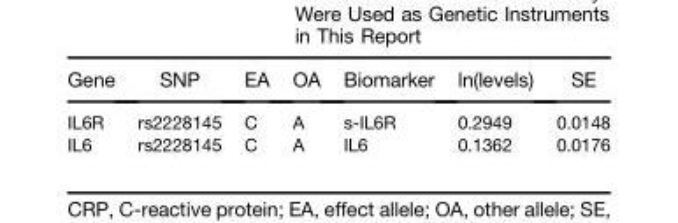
<table><thead><tr><td>Gene</td><td>SNP</td><td>EA</td><td>OA</td><td>Biomarker</td><td>ln(levels)</td><td>SE</td></tr></thead><tbody><tr><td>IL6R</td><td>rs2228145</td><td>C</td><td>A</td><td>s-IL6R</td><td>0.2949</td><td>0.0148</td></tr><tr><td>IL6</td><td>rs2228145</td><td>C</td><td>A</td><td>IL6</td><td>0.1362</td><td>0.0176</td></tr></tbody></table>